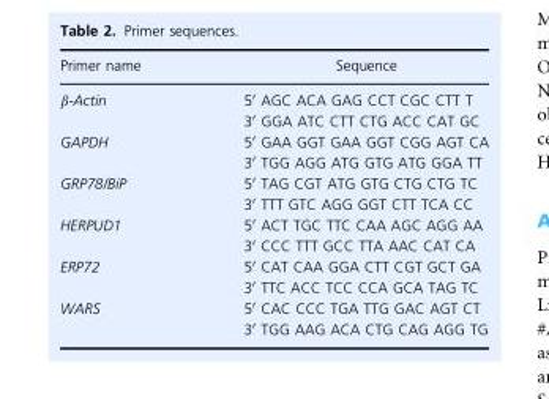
<table><thead><tr><td>Primer name</td><td>Sequence</td></tr></thead><tbody><tr><td rowspan="2">β-Actin</td><td>5′ AGC ACA GAG CCT CGC CTT T</td></tr><tr><td>3′ GGA ATC CTT CTG ACC CAT GC</td></tr><tr><td rowspan="2">GAPDH</td><td>5′ GAA GGT GAA GGT CGG AGT CA</td></tr><tr><td>3′ TGG AGG ATG GTG ATG GGA TT</td></tr><tr><td rowspan="2">GRP78/BiP</td><td>5′ TAG CGT ATG GTG CTG CTG TC</td></tr><tr><td>3′ TTT GTC AGG GGT CTT TCA CC</td></tr><tr><td rowspan="2">HERPUD1</td><td>5′ ACT TGC TTC CAA AGC AGG AA</td></tr><tr><td>3′ CCC TTT GCC TTA AAC CAT CA</td></tr><tr><td rowspan="2">ERP72</td><td>5′ CAT CAA GGA CTT CGT GCT GA</td></tr><tr><td>3′ TTC ACC TCC CCA GCA TAG TC</td></tr><tr><td rowspan="2">WARS</td><td>5′ CAC CCC TGA TTG GAC AGT CT</td></tr><tr><td>3′ TGG AAG ACA CTG CAG AGG TG</td></tr></tbody></table>